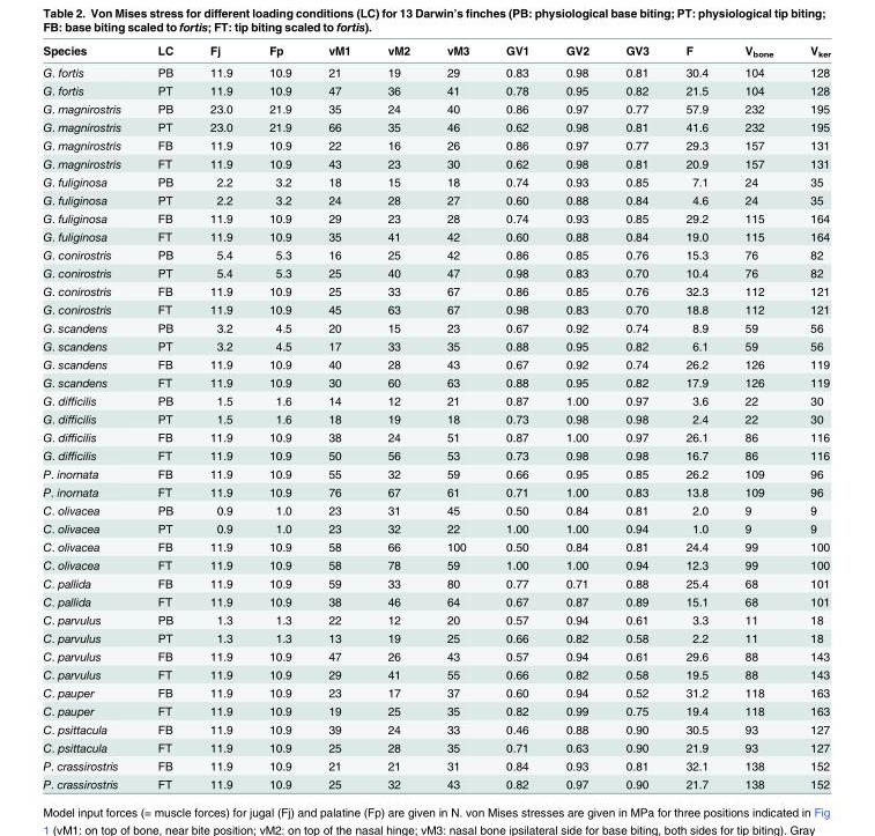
<table><thead><tr><td>Species</td><td>LC</td><td>Fj</td><td>Fp</td><td>vM1</td><td>vM2</td><td>vM3</td><td>GV1</td><td>GV2</td><td>GV3</td><td>F</td><td>V<sub>bone</sub></td><td>V<sub>ker</sub></td></tr></thead><tbody><tr><td>G. fortis</td><td>PB</td><td>11.9</td><td>10.9</td><td>21</td><td>19</td><td>29</td><td>0.83</td><td>0.98</td><td>0.81</td><td>30.4</td><td>104</td><td>128</td></tr><tr><td>G. fortis</td><td>PT</td><td>11.9</td><td>10.9</td><td>47</td><td>36</td><td>41</td><td>0.78</td><td>0.95</td><td>0.82</td><td>21.5</td><td>104</td><td>128</td></tr><tr><td>G. magnirostris</td><td>PB</td><td>23.0</td><td>21.9</td><td>35</td><td>24</td><td>40</td><td>0.86</td><td>0.97</td><td>0.77</td><td>57.9</td><td>232</td><td>195</td></tr><tr><td>G. magnirostris</td><td>PT</td><td>23.0</td><td>21.9</td><td>66</td><td>35</td><td>46</td><td>0.62</td><td>0.98</td><td>0.81</td><td>41.6</td><td>232</td><td>195</td></tr><tr><td>G. magnirostris</td><td>FB</td><td>11.9</td><td>10.9</td><td>22</td><td>16</td><td>26</td><td>0.86</td><td>0.97</td><td>0.77</td><td>29.3</td><td>157</td><td>131</td></tr><tr><td>G. magnirostris</td><td>FT</td><td>11.9</td><td>10.9</td><td>43</td><td>23</td><td>30</td><td>0.62</td><td>0.98</td><td>0.81</td><td>20.9</td><td>157</td><td>131</td></tr><tr><td>G. fuliginosa</td><td>PB</td><td>2.2</td><td>3.2</td><td>18</td><td>15</td><td>18</td><td>0.74</td><td>0.93</td><td>0.85</td><td>7.1</td><td>24</td><td>35</td></tr><tr><td>G. fuliginosa</td><td>PT</td><td>2.2</td><td>3.2</td><td>24</td><td>28</td><td>27</td><td>0.60</td><td>0.88</td><td>0.84</td><td>4.6</td><td>24</td><td>35</td></tr><tr><td>G. fuliginosa</td><td>FB</td><td>11.9</td><td>10.9</td><td>29</td><td>23</td><td>28</td><td>0.74</td><td>0.93</td><td>0.85</td><td>29.2</td><td>115</td><td>164</td></tr><tr><td>G. fuliginosa</td><td>FT</td><td>11.9</td><td>10.9</td><td>35</td><td>41</td><td>42</td><td>0.60</td><td>0.88</td><td>0.84</td><td>19.0</td><td>115</td><td>164</td></tr><tr><td>G. conirostris</td><td>PB</td><td>5.4</td><td>5.3</td><td>16</td><td>25</td><td>42</td><td>0.86</td><td>0.85</td><td>0.76</td><td>15.3</td><td>76</td><td>82</td></tr><tr><td>G. conirostris</td><td>PT</td><td>5.4</td><td>5.3</td><td>25</td><td>40</td><td>47</td><td>0.98</td><td>0.83</td><td>0.70</td><td>10.4</td><td>76</td><td>82</td></tr><tr><td>G. conirostris</td><td>FB</td><td>11.9</td><td>10.9</td><td>25</td><td>33</td><td>67</td><td>0.86</td><td>0.85</td><td>0.76</td><td>32.3</td><td>112</td><td>121</td></tr><tr><td>G. conirostris</td><td>FT</td><td>11.9</td><td>10.9</td><td>45</td><td>63</td><td>67</td><td>0.98</td><td>0.83</td><td>0.70</td><td>18.8</td><td>112</td><td>121</td></tr><tr><td>G. scandens</td><td>PB</td><td>3.2</td><td>4.5</td><td>20</td><td>15</td><td>23</td><td>0.67</td><td>0.92</td><td>0.74</td><td>8.9</td><td>59</td><td>56</td></tr><tr><td>G. scandens</td><td>PT</td><td>3.2</td><td>4.5</td><td>17</td><td>33</td><td>35</td><td>0.88</td><td>0.95</td><td>0.82</td><td>6.1</td><td>59</td><td>56</td></tr><tr><td>G. scandens</td><td>FB</td><td>11.9</td><td>10.9</td><td>40</td><td>28</td><td>43</td><td>0.67</td><td>0.92</td><td>0.74</td><td>26.2</td><td>126</td><td>119</td></tr><tr><td>G. scandens</td><td>FT</td><td>11.9</td><td>10.9</td><td>30</td><td>60</td><td>63</td><td>0.88</td><td>0.95</td><td>0.82</td><td>17.9</td><td>126</td><td>119</td></tr><tr><td>G. difficilis</td><td>PB</td><td>1.5</td><td>1.6</td><td>14</td><td>12</td><td>21</td><td>0.87</td><td>1.00</td><td>0.97</td><td>3.6</td><td>22</td><td>30</td></tr><tr><td>G. difficilis</td><td>PT</td><td>1.5</td><td>1.6</td><td>18</td><td>19</td><td>18</td><td>0.73</td><td>0.98</td><td>0.98</td><td>2.4</td><td>22</td><td>30</td></tr><tr><td>G. difficilis</td><td>FB</td><td>11.9</td><td>10.9</td><td>38</td><td>24</td><td>51</td><td>0.87</td><td>1.00</td><td>0.97</td><td>26.1</td><td>86</td><td>116</td></tr><tr><td>G. difficilis</td><td>FT</td><td>11.9</td><td>10.9</td><td>50</td><td>56</td><td>53</td><td>0.73</td><td>0.98</td><td>0.98</td><td>16.7</td><td>86</td><td>116</td></tr><tr><td>P. inornata</td><td>FB</td><td>11.9</td><td>10.9</td><td>55</td><td>32</td><td>59</td><td>0.66</td><td>0.95</td><td>0.85</td><td>26.2</td><td>109</td><td>96</td></tr><tr><td>P. inornata</td><td>FT</td><td>11.9</td><td>10.9</td><td>76</td><td>67</td><td>61</td><td>0.71</td><td>1.00</td><td>0.83</td><td>13.8</td><td>109</td><td>96</td></tr><tr><td>C. olivacea</td><td>PB</td><td>0.9</td><td>1.0</td><td>23</td><td>31</td><td>45</td><td>0.50</td><td>0.84</td><td>0.81</td><td>2.0</td><td>9</td><td>9</td></tr><tr><td>C. olivacea</td><td>PT</td><td>0.9</td><td>1.0</td><td>23</td><td>32</td><td>22</td><td>1.00</td><td>1.00</td><td>0.94</td><td>1.0</td><td>9</td><td>9</td></tr><tr><td>C. olivacea</td><td>FB</td><td>11.9</td><td>10.9</td><td>58</td><td>66</td><td>100</td><td>0.50</td><td>0.84</td><td>0.81</td><td>24.4</td><td>99</td><td>100</td></tr><tr><td>C. olivacea</td><td>FT</td><td>11.9</td><td>10.9</td><td>58</td><td>78</td><td>59</td><td>1.00</td><td>1.00</td><td>0.94</td><td>12.3</td><td>99</td><td>100</td></tr><tr><td>C. pallida</td><td>FB</td><td>11.9</td><td>10.9</td><td>59</td><td>33</td><td>80</td><td>0.77</td><td>0.71</td><td>0.88</td><td>25.4</td><td>68</td><td>101</td></tr><tr><td>C. pallida</td><td>FT</td><td>11.9</td><td>10.9</td><td>38</td><td>46</td><td>64</td><td>0.67</td><td>0.87</td><td>0.89</td><td>15.1</td><td>68</td><td>101</td></tr><tr><td>C. parvulus</td><td>PB</td><td>1.3</td><td>1.3</td><td>22</td><td>12</td><td>20</td><td>0.57</td><td>0.94</td><td>0.61</td><td>3.3</td><td>11</td><td>18</td></tr><tr><td>C. parvulus</td><td>PT</td><td>1.3</td><td>1.3</td><td>13</td><td>19</td><td>25</td><td>0.66</td><td>0.82</td><td>0.58</td><td>2.2</td><td>11</td><td>18</td></tr><tr><td>C. parvulus</td><td>FB</td><td>11.9</td><td>10.9</td><td>47</td><td>26</td><td>43</td><td>0.57</td><td>0.94</td><td>0.61</td><td>29.6</td><td>88</td><td>143</td></tr><tr><td>C. parvulus</td><td>FT</td><td>11.9</td><td>10.9</td><td>29</td><td>41</td><td>55</td><td>0.66</td><td>0.82</td><td>0.58</td><td>19.5</td><td>88</td><td>143</td></tr><tr><td>C. pauper</td><td>FB</td><td>11.9</td><td>10.9</td><td>23</td><td>17</td><td>37</td><td>0.60</td><td>0.94</td><td>0.52</td><td>31.2</td><td>118</td><td>163</td></tr><tr><td>C. pauper</td><td>FT</td><td>11.9</td><td>10.9</td><td>19</td><td>25</td><td>35</td><td>0.82</td><td>0.99</td><td>0.75</td><td>19.4</td><td>118</td><td>163</td></tr><tr><td>C. psittacula</td><td>FB</td><td>11.9</td><td>10.9</td><td>39</td><td>24</td><td>33</td><td>0.46</td><td>0.88</td><td>0.90</td><td>30.5</td><td>93</td><td>127</td></tr><tr><td>C. psittacula</td><td>FT</td><td>11.9</td><td>10.9</td><td>25</td><td>28</td><td>35</td><td>0.71</td><td>0.63</td><td>0.90</td><td>21.9</td><td>93</td><td>127</td></tr><tr><td>P. crassirostris</td><td>FB</td><td>11.9</td><td>10.9</td><td>21</td><td>21</td><td>31</td><td>0.84</td><td>0.93</td><td>0.81</td><td>32.1</td><td>138</td><td>152</td></tr><tr><td>P. crassirostris</td><td>FT</td><td>11.9</td><td>10.9</td><td>25</td><td>32</td><td>43</td><td>0.82</td><td>0.97</td><td>0.90</td><td>21.7</td><td>138</td><td>152</td></tr></tbody></table>